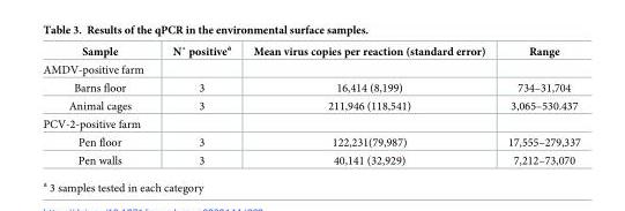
<table><thead><tr><td>Sample</td><td>N˚ positivea</td><td>Mean virus copies per reaction (standard error)</td><td>Range</td></tr></thead><tbody><tr><td colspan="4">AMDV-positive farm</td></tr><tr><td>Barns floor</td><td>3</td><td>16,414 (8,199)</td><td>734–31,704</td></tr><tr><td>Animal cages</td><td>3</td><td>211,946 (118,541)</td><td>3,065–530.437</td></tr><tr><td colspan="4">PCV-2-positive farm</td></tr><tr><td>Pen floor</td><td>3</td><td>122,231(79,987)</td><td>17,555–279,337</td></tr><tr><td>Pen walls</td><td>3</td><td>40,141 (32,929)</td><td>7,212–73,070</td></tr></tbody></table>